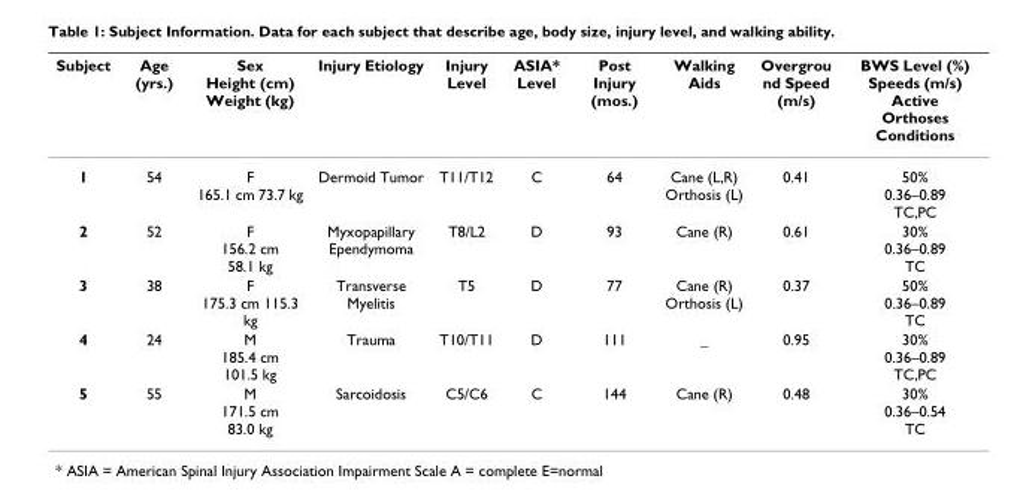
<table><thead><tr><td>Subject</td><td>Age (yrs.)</td><td>Sex Height (cm) Weight (kg)</td><td>Injury Etiology</td><td>Injury Level</td><td>ASIA* Level</td><td>Post Injury (mos.)</td><td>Walking Aids</td><td>Overgrou nd Speed (m/s)</td><td>BWS Level (%) Speeds (m/s) Active Orthoses Conditions</td></tr></thead><tbody><tr><td>1</td><td>54</td><td>F 165.1 cm 73.7 kg</td><td>Dermoid Tumor</td><td>T11/T12</td><td>C</td><td>64</td><td>Cane (L,R) Orthosis (L)</td><td>0.41</td><td>50% 0.36–0.89 TC,PC</td></tr><tr><td>2</td><td>52</td><td>F 156.2 cm 58.1 kg</td><td>Myxopapillary Ependymoma</td><td>T8/L2</td><td>D</td><td>93</td><td>Cane (R)</td><td>0.61</td><td>30% 0.36–0.89 TC</td></tr><tr><td>3</td><td>38</td><td>F 175.3 cm 115.3 kg</td><td>Transverse Myelitis</td><td>T5</td><td>D</td><td>77</td><td>Cane (R) Orthosis (L)</td><td>0.37</td><td>50% 0.36–0.89 TC</td></tr><tr><td>4</td><td>24</td><td>M 185.4 cm 101.5 kg</td><td>Trauma</td><td>T10/T11</td><td>D</td><td>111</td><td>_</td><td>0.95</td><td>30% 0.36–0.89 TC,PC</td></tr><tr><td>5</td><td>55</td><td>M 171.5 cm 83.0 kg</td><td>Sarcoidosis</td><td>C5/C6</td><td>C</td><td>144</td><td>Cane (R)</td><td>0.48</td><td>30% 0.36–0.54 TC</td></tr></tbody></table>